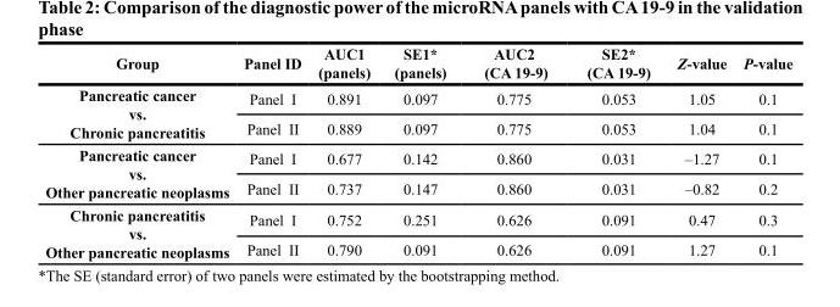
<table><thead><tr><td>Group</td><td>Panel ID</td><td>AUC1 (panels)</td><td>SE1* (panels)</td><td>Auc2 (CA 19-9)</td><td>SE2* (CA 19-9)</td><td>Z-value</td><td>P-value</td></tr></thead><tbody><tr><td rowspan="2">Pancreatic cancer vs. chronic pancreatitis</td><td>Panel I</td><td>0.891</td><td>0.097</td><td>0.775</td><td>0.053</td><td>1.05</td><td>0.1</td></tr><tr><td>Panel II</td><td>0.889</td><td>0.097</td><td>0.775</td><td>0.053</td><td>1.04</td><td>0.1</td></tr><tr><td rowspan="2">Pancreatic cancer vs. Other pancreatic neoplasms</td><td>Panel I</td><td>0.677</td><td>0.142</td><td>0.860</td><td>0.031</td><td>–1.27</td><td>0.1</td></tr><tr><td>Panel II</td><td>0.737</td><td>0.147</td><td>0.860</td><td>0.031</td><td>–0.82</td><td>0.2</td></tr><tr><td rowspan="2">chronic pancreatitis vs. Other pancreatic neoplasms</td><td>Panel I</td><td>0.752</td><td>0.251</td><td>0.626</td><td>0.091</td><td>0.47</td><td>0.3</td></tr><tr><td>Panel II</td><td>0.790</td><td>0.091</td><td>0.626</td><td>0.091</td><td>1.27</td><td>0.1</td></tr></tbody></table>